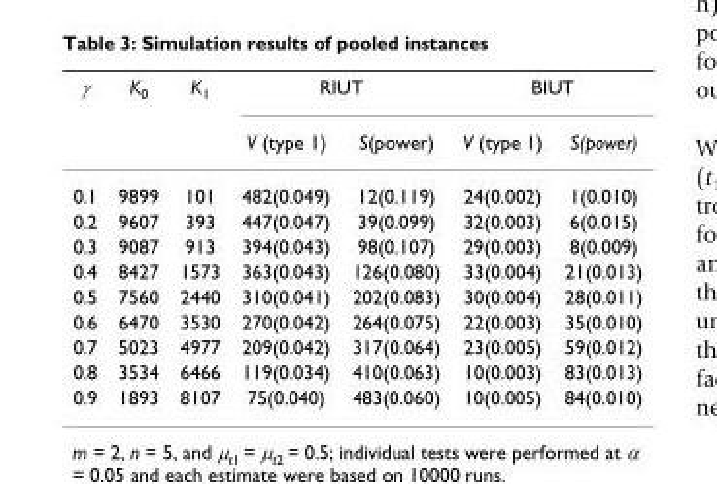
<table><thead><tr><td rowspan="2">γ</td><td rowspan="2">K<sub>0</sub></td><td rowspan="2">K<sub>1</sub></td><td colspan="2">RIUT</td><td colspan="2">BIUT</td></tr><tr><td>V (type 1)</td><td>S(power)</td><td>V (type 1)</td><td>S(power)</td></tr></thead><tbody><tr><td>0.1</td><td>9899</td><td>101</td><td>482(0.049)</td><td>12(0.119)</td><td>24(0.002)</td><td>1(0.010)</td></tr><tr><td>0.2</td><td>9607</td><td>393</td><td>447(0.047)</td><td>39(0.099)</td><td>32(0.003)</td><td>6(0.015)</td></tr><tr><td>0.3</td><td>9087</td><td>913</td><td>394(0.043)</td><td>98(0.107)</td><td>29(0.003)</td><td>8(0.009)</td></tr><tr><td>0.4</td><td>8427</td><td>1573</td><td>363(0.043)</td><td>126(0.080)</td><td>33(0.004)</td><td>21(0.013)</td></tr><tr><td>0.5</td><td>7560</td><td>2440</td><td>310(0.041)</td><td>202(0.083)</td><td>30(0.004)</td><td>28(0.011)</td></tr><tr><td>0.6</td><td>6470</td><td>3530</td><td>270(0.042)</td><td>264(0.075)</td><td>22(0.003)</td><td>35(0.010)</td></tr><tr><td>0.7</td><td>5023</td><td>4977</td><td>209(0.042)</td><td>317(0.064)</td><td>23(0.005)</td><td>59(0.012)</td></tr><tr><td>0.8</td><td>3534</td><td>6466</td><td>119(0.034)</td><td>410(0.063)</td><td>10(0.003)</td><td>83(0.013)</td></tr><tr><td>0.9</td><td>1893</td><td>8107</td><td>75(0.040)</td><td>483(0.060)</td><td>10(0.005)</td><td>84(0.010)</td></tr></tbody></table>